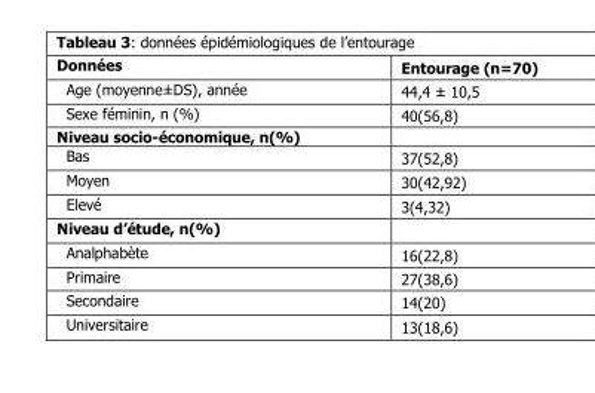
<table><thead><tr><td>Données</td><td>Entourage (n=70)</td></tr></thead><tbody><tr><td>Age (moyenne±DS), année</td><td>44,4 ± 10,5</td></tr><tr><td>Sexe féminin, n (%)</td><td>40(56,8)</td></tr><tr><td colspan="2">Niveau socio-économique, n(%)</td></tr><tr><td>Bas</td><td>37(52,8)</td></tr><tr><td>Moyen</td><td>30(42,92)</td></tr><tr><td>Elevé</td><td>3(4,32)</td></tr><tr><td colspan="2">Niveau d’étude, n(%)</td></tr><tr><td>Analphabète</td><td>16(22,8)</td></tr><tr><td>Primaire</td><td>27(38,6)</td></tr><tr><td>Secondaire</td><td>14(20)</td></tr><tr><td>Universitaire</td><td>13(18,6)</td></tr></tbody></table>